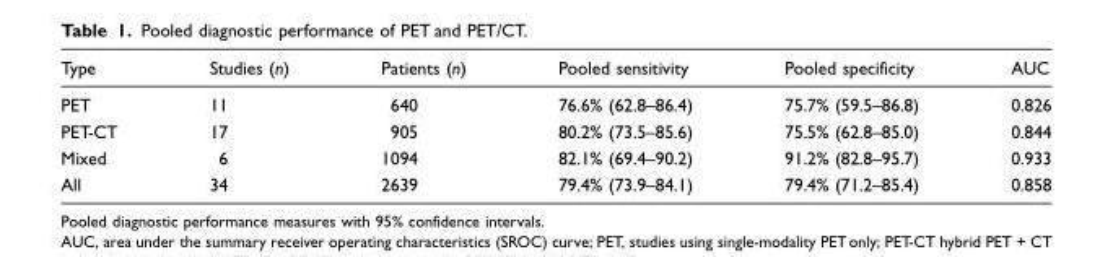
<table><thead><tr><td>Type</td><td>Studies (n)</td><td>Patients (n)</td><td>Pooled sensitivity</td><td>Pooled specificity</td><td>AUC</td></tr></thead><tbody><tr><td>PET</td><td>11</td><td>640</td><td>76.6% (62.8–86.4)</td><td>75.7% (59.5–86.8)</td><td>0.826</td></tr><tr><td>PET-CT</td><td>17</td><td>905</td><td>80.2% (73.5–85.6)</td><td>75.5% (62.8–85.0)</td><td>0.844</td></tr><tr><td>Mixed</td><td>6</td><td>1094</td><td>82.1% (69.4–90.2)</td><td>91.2% (82.8–95.7)</td><td>0.933</td></tr><tr><td>All</td><td>34</td><td>2639</td><td>79.4% (73.9–84.1)</td><td>79.4% (71.2–85.4)</td><td>0.858</td></tr></tbody></table>